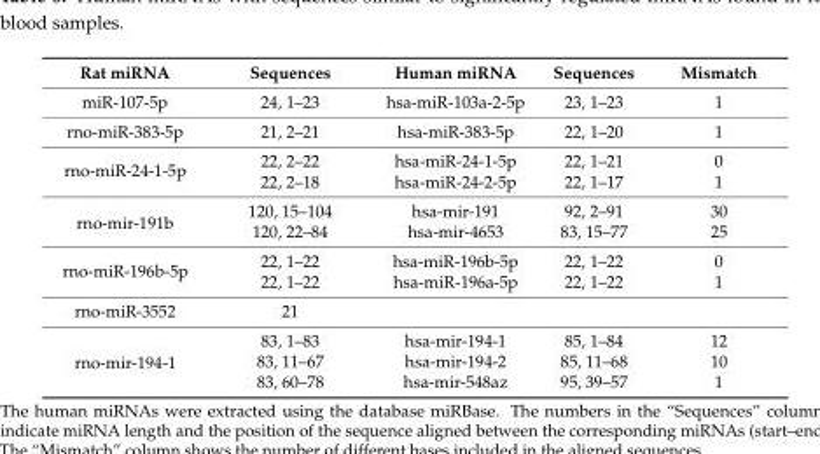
<table><thead><tr><td>Rat miRNA</td><td>Sequences</td><td>Human miRNA</td><td>Sequences</td><td>Mismatch</td></tr></thead><tbody><tr><td>miR-107-5p</td><td>24, 1–23</td><td>hsa-miR-103a-2-5p</td><td>23, 1–23</td><td>1</td></tr><tr><td>rno-miR-383-5p</td><td>21, 2–21</td><td>hsa-miR-383-5p</td><td>22, 1–20</td><td>1</td></tr><tr><td rowspan="2">rno-miR-24-1-5p</td><td>22, 2–22</td><td>hsa-miR-24-1-5p</td><td>22, 1–21</td><td>0</td></tr><tr><td>22, 2–18</td><td>hsa-miR-24-2-5p</td><td>22, 1–17</td><td>1</td></tr><tr><td rowspan="2">rno-mir-191b</td><td>120, 15–104</td><td>hsa-mir-191</td><td>92, 2–91</td><td>30</td></tr><tr><td>120, 22–84</td><td>hsa-mir-4653</td><td>83, 15–77</td><td>25</td></tr><tr><td rowspan="2">rno-miR-196b-5p</td><td>22, 1–22</td><td>hsa-miR-196b-5p</td><td>22, 1–22</td><td>0</td></tr><tr><td>22, 1–22</td><td>hsa-miR-196a-5p</td><td>22, 1–22</td><td>1</td></tr><tr><td>rno-miR-3552</td><td>21</td><td></td><td></td><td></td></tr><tr><td rowspan="3">rno-mir-194-1</td><td>83, 1–83</td><td>hsa-mir-194-1</td><td>85, 1–84</td><td>12</td></tr><tr><td>83, 11–67</td><td>hsa-mir-194-2</td><td>85, 11–68</td><td>10</td></tr><tr><td>83, 60–78</td><td>hsa-mir-548az</td><td>95, 39–57</td><td>1</td></tr></tbody></table>